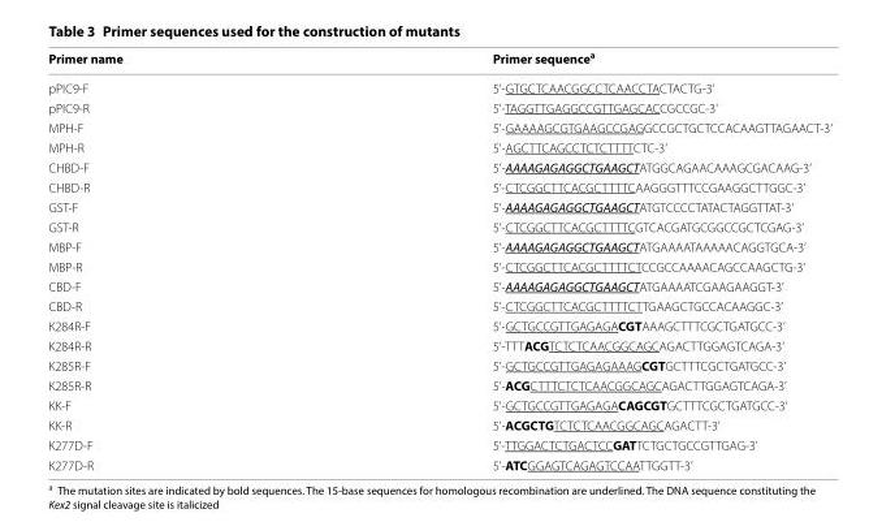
<table><thead><tr><td>Primer name</td><td>Primer sequence<sup>a</sup></td></tr></thead><tbody><tr><td>pPIC9-F</td><td>5’-GTGCTCAACGGCCTCAACCTACTACTG-3’</td></tr><tr><td>pPIC9-R</td><td>5’-TAGGTTGAGGCCGTTGAGCACCGCCGC-3’</td></tr><tr><td>MPH-F</td><td>5’-GAAAAGCGTGAAGCCGAGGCCGCTGCTCCACAAGTTAGAACT-3’</td></tr><tr><td>MPH-R</td><td>5’-AGCTTCAGCCTCTCTTTTCTC-3’</td></tr><tr><td>CHBD-F</td><td>5’-AAAAGAGAGGCTGAAGCTATGGCAGAACAAAGCGACAAG-3’</td></tr><tr><td>CHBD-R</td><td>5’-CTCGGCTTCACGCTTTTCAAGGGTTTCCGAAGGCTTGGC-3’</td></tr><tr><td>GST-F</td><td>5’-AAAAGAGAGGCTGAAGCTATGTCCCCTATACTAGGTTAT-3’</td></tr><tr><td>GST-R</td><td>5’-CTCGGCTTCACGCTTTTCGTCACGATGCGGCCGCTCGAG-3’</td></tr><tr><td>MBP-F</td><td>5’-AAAAGAGAGGCTGAAGCTATGAAAATAAAAACAGGTGCA-3’</td></tr><tr><td>MBP-R</td><td>5’-CTCGGCTTCACGCTTTTCTCCGCCAAAACAGCCAAGCTG-3’</td></tr><tr><td>CBD-F</td><td>5’-AAAAGAGAGGCTGAAGCTATGAAAATCGAAGAAGGT-3’</td></tr><tr><td>CBD-R</td><td>5’-CTCGGCTTCACGCTTTTCTTGAAGCTGCCACAAGGC-3’</td></tr><tr><td>K284R-F</td><td>5’-GCTGCCGTTGAGAGACGTAAAGCTTTCGCTGATGCC-3’</td></tr><tr><td>K284R-R</td><td>5’-TTTACGTCTCTCAACGGCAGCAGACTTGGAGTCAGA-3’</td></tr><tr><td>K285R-F</td><td>5’-GCTGCCGTTGAGAGAAAGCGTGCTTTCGCTGATGCC-3’</td></tr><tr><td>K285R-R</td><td>5’-ACGCTTTCTCTCAACGGCAGCAGACTTGGAGTCAGA-3’</td></tr><tr><td>KK-F</td><td>5’-GCTGCCGTTGAGAGACAGCGTGCTTTCGCTGATGCC-3’</td></tr><tr><td>KK-R</td><td>5’-ACGCTGTCTCTCAACGGCAGCAGACTT-3’</td></tr><tr><td>K277D-F</td><td>5’-TTGGACTCTGACTCCGATTCTGCTGCCGTTGAG-3’</td></tr><tr><td>K277D-R</td><td>5’-ATCGGAGTCAGAGTCCAATTGGTT-3’</td></tr></tbody></table>